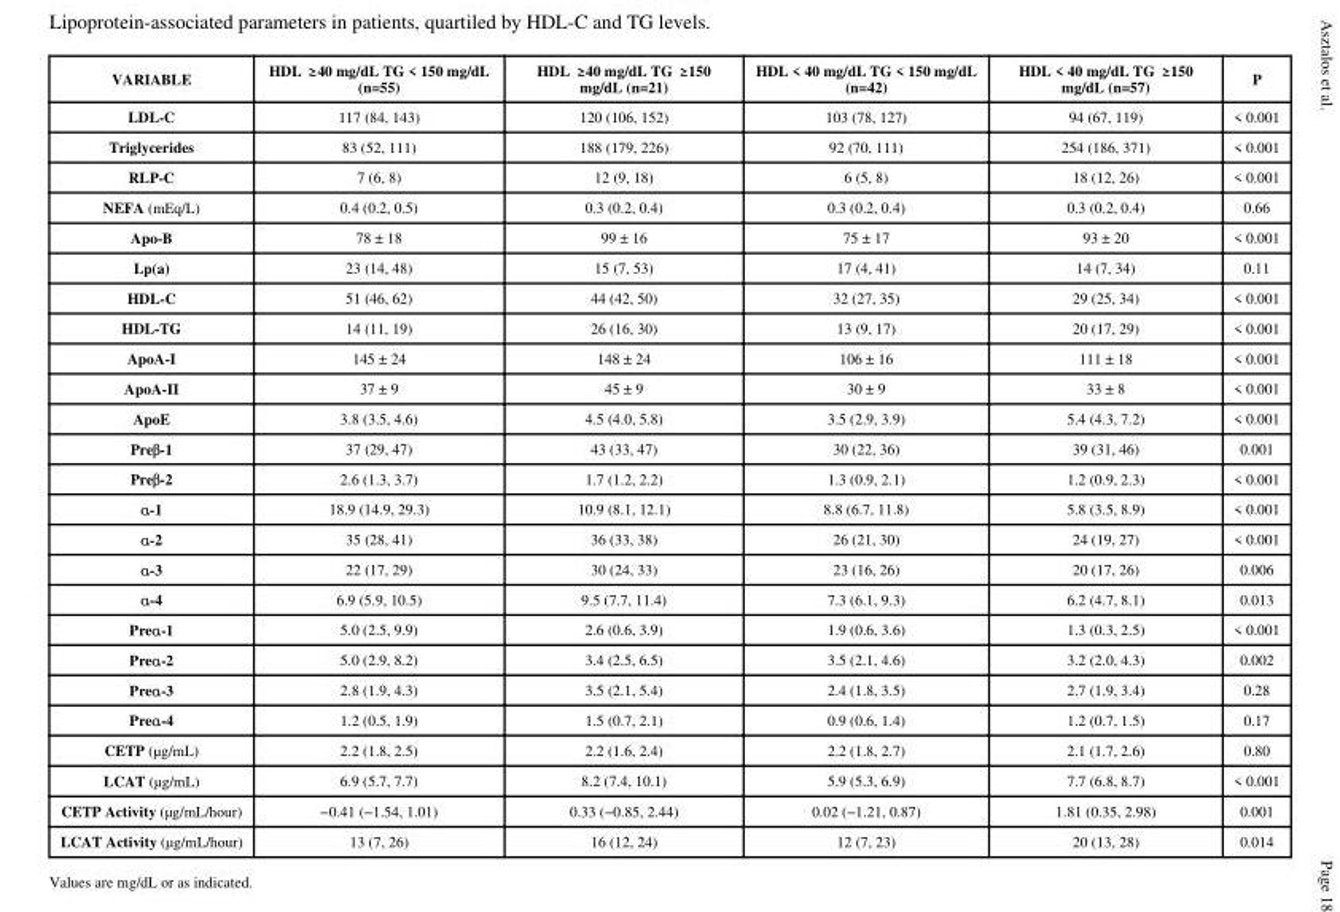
<table><thead><tr><td>VARIABLE</td><td>HDL ≥ 40 mg/dL TG &lt; 150 mg/dL (n=55)</td><td>HDL ≥ 40 mg/dL TG ≥ 150 mg/dL (n=21)</td><td>HDL &lt; 40 mg/dL TG &lt; 150 mg/dL (n=42)</td><td>HDL &lt; 40 mg/dL TG ≥ 150 mg/dL (n=57)</td><td>P</td></tr></thead><tbody><tr><td>LDL-C</td><td>117 (84, 143)</td><td>120 (106, 152)</td><td>103 (78, 127)</td><td>94 (67, 119)</td><td>&lt; 0.001</td></tr><tr><td>Triglycerides</td><td>83 (52, 111)</td><td>188 (179, 226)</td><td>92 (70, 111)</td><td>254 (186, 371)</td><td>&lt; 0.001</td></tr><tr><td>RLP-C</td><td>7 (6, 8)</td><td>12 (9, 18)</td><td>6 (5, 8)</td><td>18 (12, 26)</td><td>&lt; 0.001</td></tr><tr><td>NEFA (mEq/L)</td><td>0.4 (0.2, 0.5)</td><td>0.3 (0.2, 0.4)</td><td>0.3 (0.2, 0.4)</td><td>0.3 (0.2, 0.4)</td><td>0.66</td></tr><tr><td>Apo-B</td><td>78 ± 18</td><td>99 ± 16</td><td>75 ± 17</td><td>93 ± 20</td><td>&lt; 0.001</td></tr><tr><td>Lp(a)</td><td>23 (14, 48)</td><td>15 (7, 53)</td><td>17 (4, 41)</td><td>14 (7, 34)</td><td>0.11</td></tr><tr><td>HDL-C</td><td>51 (46, 62)</td><td>44 (42, 50)</td><td>32 (27, 35)</td><td>29 (25, 34)</td><td>&lt; 0.001</td></tr><tr><td>HDL-TG</td><td>14 (11, 19)</td><td>26 (16, 30)</td><td>13 (9, 17)</td><td>20 (17, 29)</td><td>&lt; 0.001</td></tr><tr><td>ApoA-I</td><td>145 ± 24</td><td>148 ± 24</td><td>106 ± 16</td><td>111 ± 18</td><td>&lt; 0.001</td></tr><tr><td>ApoA-II</td><td>37 ± 9</td><td>45 ± 9</td><td>30 ± 9</td><td>33 ± 8</td><td>&lt; 0.001</td></tr><tr><td>ApoE</td><td>3.8 (3.5, 4.6)</td><td>4.5 (4.0, 5.8)</td><td>3.5 (2.9, 3.9)</td><td>5.4 (4.3, 7.2)</td><td>&lt; 0.001</td></tr><tr><td>Preβ-1</td><td>37 (29, 47)</td><td>43 (33, 47)</td><td>30 (22, 36)</td><td>39 (31, 46)</td><td>0.001</td></tr><tr><td>Preβ-2</td><td>2.6 (1.3, 3.7)</td><td>1.7 (1.2, 2.2)</td><td>1.3 (0.9, 2.1)</td><td>1.2 (0.9, 2.3)</td><td>&lt; 0.001</td></tr><tr><td>α-1</td><td>18.9 (14.9, 29.3)</td><td>10.9 (8.1, 12.1)</td><td>8.8 (6.7, 11.8)</td><td>5.8 (3.5, 8.9)</td><td>&lt; 0.001</td></tr><tr><td>α-2</td><td>35 (28, 41)</td><td>36 (33, 38)</td><td>26 (21, 30)</td><td>24 (19, 27)</td><td>&lt; 0.001</td></tr><tr><td>α-3</td><td>22 (17, 29)</td><td>30 (24, 33)</td><td>23 (16, 26)</td><td>20 (17, 26)</td><td>0.006</td></tr><tr><td>α-4</td><td>6.9 (5.9, 10.5)</td><td>9.5 (7.7, 11.4)</td><td>7.3 (6.1, 9.3)</td><td>6.2 (4.7, 8.1)</td><td>0.013</td></tr><tr><td>Preα-1</td><td>5.0 (2.5, 9.9)</td><td>2.6 (0.6, 3.9)</td><td>1.9 (0.6, 3.6)</td><td>1.3 (0.3, 2.5)</td><td>&lt; 0.001</td></tr><tr><td>Preα-2</td><td>5.0 (2.9, 8.2)</td><td>3.4 (2.5, 6.5)</td><td>3.5 (2.1, 4.6)</td><td>3.2 (2.0, 4.3)</td><td>0.002</td></tr><tr><td>Preα-3</td><td>2.8 (1.9, 4.3)</td><td>3.5 (2.1, 5.4)</td><td>2.4 (1.8, 3.5)</td><td>2.7 (1.9, 3.4)</td><td>0.28</td></tr><tr><td>Preα-4</td><td>1.2 (0.5, 1.9)</td><td>1.5 (0.7, 2.1)</td><td>0.9 (0.6, 1.4)</td><td>1.2 (0.7, 1.5)</td><td>0.17</td></tr><tr><td>CETP (μg/mL)</td><td>2.2 (1.8, 2.5)</td><td>2.2 (1.6, 2.4)</td><td>2.2 (1.8, 2.7)</td><td>2.1 (1.7, 2.6)</td><td>0.80</td></tr><tr><td>LCAT (μg/mL)</td><td>6.9 (5.7, 7.7)</td><td>8.2 (7.4, 10.1)</td><td>5.9 (5.3, 6.9)</td><td>7.7 (6.8, 8.7)</td><td>&lt; 0.001</td></tr><tr><td>CETP Activity (μg/mL/hour)</td><td>−0.41 (−1.54, 1.01)</td><td>0.33 (−0.85, 2.44)</td><td>0.02 (−1.21, 0.87)</td><td>1.81 (0.35, 2.98)</td><td>0.001</td></tr><tr><td>LCAT Activity (μg/mL/hour)</td><td>13 (7, 26)</td><td>16 (12, 24)</td><td>12 (7, 23)</td><td>20 (13, 28)</td><td>0.014</td></tr></tbody></table>